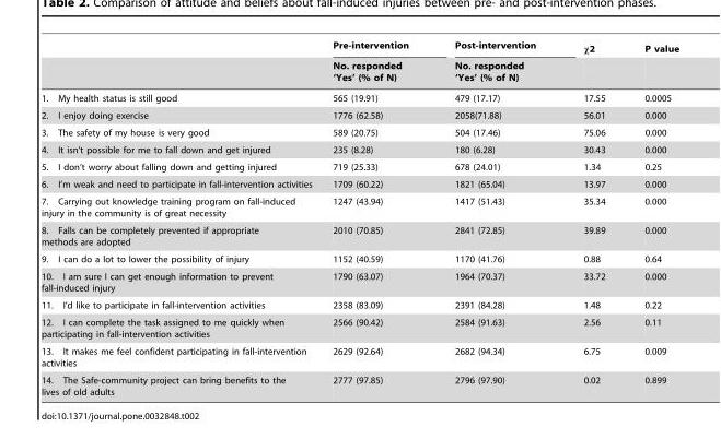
<table><thead><tr><td rowspan="2"></td><td rowspan="2">Pre-intervention No. responded ‘Yes’ (% of N)</td><td rowspan="2">Post-intervention No. responded ‘Yes’ (% of N)</td><td rowspan="2">χ2</td><td rowspan="2">P value</td></tr><tr></tr></thead><tbody><tr><td>1. My health status is still good</td><td>565 (19.91)</td><td>479 (17.17)</td><td>17.55</td><td>0.0005</td></tr><tr><td>2. I enjoy doing exercise</td><td>1776 (62.58)</td><td>2058(71.88)</td><td>56.01</td><td>0.000</td></tr><tr><td>3. The safety of my house is very good</td><td>589 (20.75)</td><td>504 (17.46)</td><td>75.06</td><td>0.000</td></tr><tr><td>4. It isn’t possible for me to fall down and get injured</td><td>235 (8.28)</td><td>180 (6.28)</td><td>30.43</td><td>0.000</td></tr><tr><td>5. I don’t worry about falling down and getting injured</td><td>719 (25.33)</td><td>678 (24.01)</td><td>1.34</td><td>0.25</td></tr><tr><td>6. I’m weak and need to participate in fall-intervention activities</td><td>1709 (60.22)</td><td>1821 (65.04)</td><td>13.97</td><td>0.000</td></tr><tr><td>7. Carrying out knowledge training program on fall-induced injury in the community is of great necessity</td><td>1247 (43.94)</td><td>1417 (51.43)</td><td>35.34</td><td>0.000</td></tr><tr><td>8. Falls can be completely prevented if appropriate methods are adopted</td><td>2010 (70.85)</td><td>2841 (72.85)</td><td>39.89</td><td>0.000</td></tr><tr><td>9. I can do a lot to lower the possibility of injury</td><td>1152 (40.59)</td><td>1170 (41.76)</td><td>0.88</td><td>0.64</td></tr><tr><td>10. I am sure I can get enough information to prevent fall-induced injury</td><td>1790 (63.07)</td><td>1964 (70.37)</td><td>33.72</td><td>0.000</td></tr><tr><td>11. I’d like to participate in fall-intervention activities</td><td>2358 (83.09)</td><td>2391 (84.28)</td><td>1.48</td><td>0.22</td></tr><tr><td>12. I can complete the task assigned to me quickly when participating in fall-intervention activities</td><td>2566 (90.42)</td><td>2584 (91.63)</td><td>2.56</td><td>0.11</td></tr><tr><td>13. It makes me feel confident participating in fall-intervention activities</td><td>2629 (92.64)</td><td>2682 (94.34)</td><td>6.75</td><td>0.009</td></tr><tr><td>14. The Safe-community project can bring benefits to the lives of old adults</td><td>2777 (97.85)</td><td>2796 (97.90)</td><td>0.02</td><td>0.899</td></tr></tbody></table>